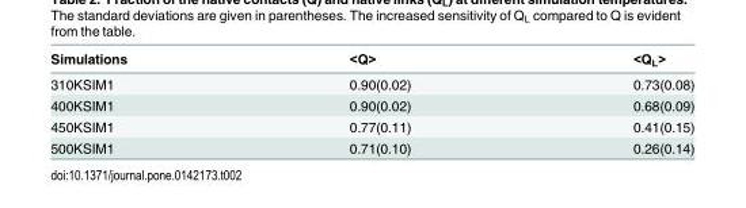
<table><thead><tr><td>Simulations</td><td>&lt;Q&gt;</td><td>&lt;Q<sub>L</sub>&gt;</td></tr></thead><tbody><tr><td>310KSIM1</td><td>0.90(0.02)</td><td>0.73(0.08)</td></tr><tr><td>400KSIM1</td><td>0.90(0.02)</td><td>0.68(0.09)</td></tr><tr><td>450KSIM1</td><td>0.77(0.11)</td><td>0.41(0.15)</td></tr><tr><td>500KSIM1</td><td>0.71(0.10)</td><td>0.26(0.14)</td></tr></tbody></table>